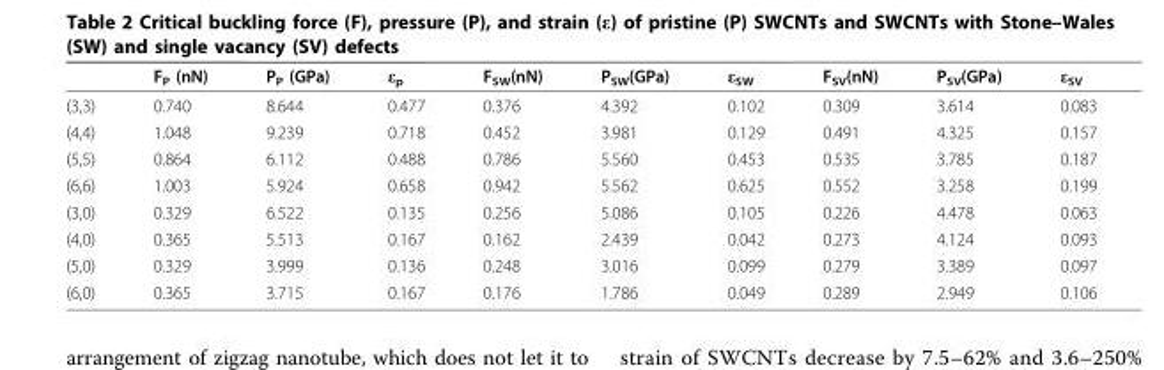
<table><thead><tr><td></td><td>F<sub>P</sub> (nN)</td><td>P<sub>P</sub> (GPa)</td><td>ε<sub>p</sub></td><td>F<sub>SW</sub>(nN)</td><td>P<sub>SW</sub>(GPa)</td><td>ε<sub>SW</sub></td><td>F<sub>SV</sub>(nN)</td><td>P<sub>SV</sub>(GPa)</td><td>ε<sub>SV</sub></td></tr></thead><tbody><tr><td>(3,3)</td><td>0.740</td><td>8.644</td><td>0.477</td><td>0.376</td><td>4.392</td><td>0.102</td><td>0.309</td><td>3.614</td><td>0.083</td></tr><tr><td>(4,4)</td><td>1.048</td><td>9.239</td><td>0.718</td><td>0.452</td><td>3.981</td><td>0.129</td><td>0.491</td><td>4.325</td><td>0.157</td></tr><tr><td>(5,5)</td><td>0.864</td><td>6.112</td><td>0.488</td><td>0.786</td><td>5.560</td><td>0.453</td><td>0.535</td><td>3.785</td><td>0.187</td></tr><tr><td>(6,6)</td><td>1.003</td><td>5.924</td><td>0.658</td><td>0.942</td><td>5.562</td><td>0.625</td><td>0.552</td><td>3.258</td><td>0.199</td></tr><tr><td>(3,0)</td><td>0.329</td><td>6.522</td><td>0.135</td><td>0.256</td><td>5.086</td><td>0.105</td><td>0.226</td><td>4.478</td><td>0.063</td></tr><tr><td>(4,0)</td><td>0.365</td><td>5.513</td><td>0.167</td><td>0.162</td><td>2.439</td><td>0.042</td><td>0.273</td><td>4.124</td><td>0.093</td></tr><tr><td>(5,0)</td><td>0.329</td><td>3.999</td><td>0.136</td><td>0.248</td><td>3.016</td><td>0.099</td><td>0.279</td><td>3.389</td><td>0.097</td></tr><tr><td>(6,0)</td><td>0.365</td><td>3.715</td><td>0.167</td><td>0.176</td><td>1.786</td><td>0.049</td><td>0.289</td><td>2.949</td><td>0.106</td></tr></tbody></table>